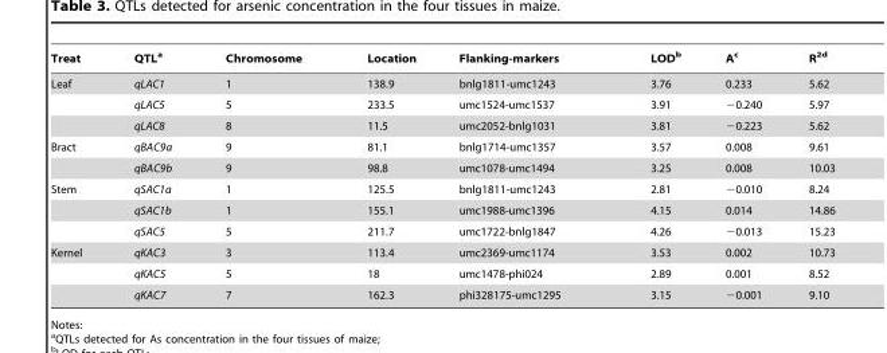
<table><thead><tr><td>Treat</td><td>QTL<sup>a</sup></td><td>Chromosome</td><td>Location</td><td>Flanking-markers</td><td>LOD<sup>b</sup></td><td>A<sup>c</sup></td><td>R<sup>2</sup>d</td></tr></thead><tbody><tr><td rowspan="3">Leaf</td><td>qLAC1</td><td>1</td><td>138.9</td><td>bnlg1811-umc1243</td><td>3.76</td><td>0.233</td><td>5.62</td></tr><tr><td>qLAC5</td><td>5</td><td>233.5</td><td>umc1524-umc1537</td><td>3.91</td><td>−0.240</td><td>5.97</td></tr><tr><td>qLAC8</td><td>8</td><td>11.5</td><td>umc2052-bnlg1031</td><td>3.81</td><td>−0.223</td><td>5.62</td></tr><tr><td rowspan="2">Bract</td><td>qBAC9a</td><td>9</td><td>81.1</td><td>bnlg1714-umc1357</td><td>3.57</td><td>0.008</td><td>9.61</td></tr><tr><td>qBAC9b</td><td>9</td><td>98.8</td><td>umc1078-umc1494</td><td>3.25</td><td>0.008</td><td>10.03</td></tr><tr><td rowspan="3">Stem</td><td>qSAC1a</td><td>1</td><td>125.5</td><td>bnlg1811-umc1243</td><td>2.81</td><td>−0.010</td><td>8.24</td></tr><tr><td>qSAC1b</td><td>1</td><td>155.1</td><td>umc1988-umc1396</td><td>4.15</td><td>0.014</td><td>14.86</td></tr><tr><td>qSAC5</td><td>5</td><td>211.7</td><td>umc1722-bnlg1847</td><td>4.26</td><td>−0.013</td><td>15.23</td></tr><tr><td rowspan="3">Kernel</td><td>qKAC3</td><td>3</td><td>113.4</td><td>umc2369-umc1174</td><td>3.53</td><td>0.002</td><td>10.73</td></tr><tr><td>qKAC5</td><td>5</td><td>18</td><td>umc1478-phi024</td><td>2.89</td><td>0.001</td><td>8.52</td></tr><tr><td>qKAC7</td><td>7</td><td>162.3</td><td>phi328175-umc1295</td><td>3.15</td><td>−0.001</td><td>9.10</td></tr></tbody></table>